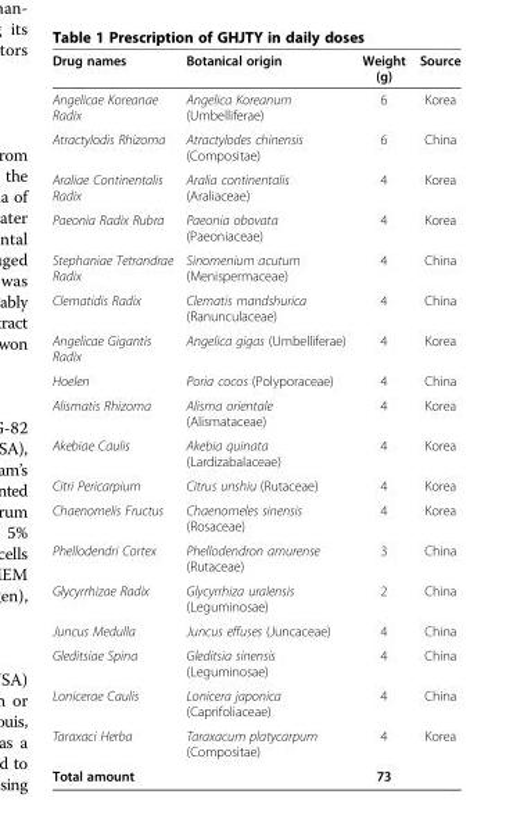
<table><thead><tr><td>Drug names</td><td>Botanical origin</td><td>Weight (g)</td><td>Source</td></tr></thead><tbody><tr><td>Angelicae Koreanae Radix</td><td>Angelica Koreanum (Umbelliferae)</td><td>6</td><td>Korea</td></tr><tr><td>Atractylodis Rhizoma</td><td>Atractylodes chinensis (Compositae)</td><td>6</td><td>China</td></tr><tr><td>Araliae Continentalis Radix</td><td>Aralia continentalis (Araliaceae)</td><td>4</td><td>Korea</td></tr><tr><td>Paeonia Radix Rubra</td><td>Paeonia obovata (Paeoniaceae)</td><td>4</td><td>Korea</td></tr><tr><td>Stephaniae Tetrandrae Radix</td><td>Sinomenium acutum (Menispermaceae)</td><td>4</td><td>China</td></tr><tr><td>Clematidis Radix</td><td>Clematis mandshurica (Ranunculaceae)</td><td>4</td><td>China</td></tr><tr><td>Angelicae Gigantis Radix</td><td>Angelica gigas (Umbelliferae)</td><td>4</td><td>Korea</td></tr><tr><td>Hoelen</td><td>Poria cocos (Polyporaceae)</td><td>4</td><td>China</td></tr><tr><td>Alismatis Rhizoma</td><td>Alisma orientale (Alismataceae)</td><td>4</td><td>Korea</td></tr><tr><td>Akebiae Caulis</td><td>Akebia quinata (Lardizabalaceae)</td><td>4</td><td>Korea</td></tr><tr><td>Citri Pericarpium</td><td>Citrus unshiu (Rutaceae)</td><td>4</td><td>Korea</td></tr><tr><td>Chaenomelis Fructus</td><td>Chaenomeles sinensis (Rosaceae)</td><td>4</td><td>Korea</td></tr><tr><td>Phellodendri Cortex</td><td>Phellodendron amurense (Rutaceae)</td><td>3</td><td>China</td></tr><tr><td>Glycyrrhizae Radix</td><td>Glycyrrhiza uralensis (Leguminosae)</td><td>2</td><td>China</td></tr><tr><td>Juncus Medulla</td><td>Juncus effuses (Juncaceae)</td><td>4</td><td>China</td></tr><tr><td>Gleditsiae Spina</td><td>Gleditsia sinensis (Leguminosae)</td><td>4</td><td>China</td></tr><tr><td>Lonicerae Caulis</td><td>Lonicera japonica (Caprifoliaceae)</td><td>4</td><td>China</td></tr><tr><td>Taraxaci Herba</td><td>Taraxacum platycarpum (Compositae)</td><td>4</td><td>Korea</td></tr><tr><td>Total amount</td><td></td><td>73</td><td></td></tr></tbody></table>